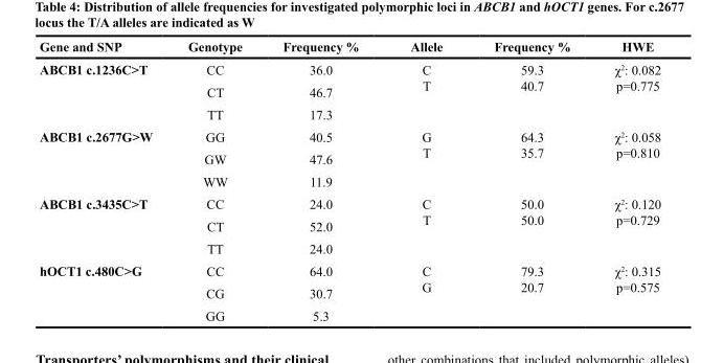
<table><thead><tr><td>Gene and SNP</td><td>Genotype</td><td>Frequency %</td><td>Allele</td><td>Frequency %</td><td>HWE</td></tr></thead><tbody><tr><td rowspan="3">ABCB1 c.1236C&gt;T</td><td>CC</td><td>36.0</td><td rowspan="2">C T</td><td rowspan="2">59.3 40.7</td><td rowspan="2">χ<sup>2</sup>: 0.082 p=0.775</td></tr><tr><td>CT</td><td>46.7</td></tr><tr><td>TT</td><td>17.3</td><td></td><td></td><td></td></tr><tr><td rowspan="3">ABCB1 c.2677G&gt;W</td><td>GG</td><td>40.5</td><td rowspan="2">G T</td><td rowspan="2">64.3 35.7</td><td rowspan="2">χ<sup>2</sup>: 0.058 p=0.810</td></tr><tr><td>GW</td><td>47.6</td></tr><tr><td>WW</td><td>11.9</td><td></td><td></td><td></td></tr><tr><td rowspan="3">ABCB1 c.3435C&gt;T</td><td>CC</td><td>24.0</td><td rowspan="2">C T</td><td rowspan="2">50.0 50.0</td><td rowspan="2">χ<sup>2</sup>: 0.120 p=0.729</td></tr><tr><td>CT</td><td>52.0</td></tr><tr><td>TT</td><td>24.0</td><td></td><td></td><td></td></tr><tr><td rowspan="3">hOCT1 c.480C&gt;G</td><td>CC</td><td>64.0</td><td rowspan="2">C G</td><td rowspan="2">79.3 20.7</td><td rowspan="2">χ<sup>2</sup>: 0.315 p=0.575</td></tr><tr><td>CG</td><td>30.7</td></tr><tr><td>GG</td><td>5.3</td><td></td><td></td><td></td></tr></tbody></table>